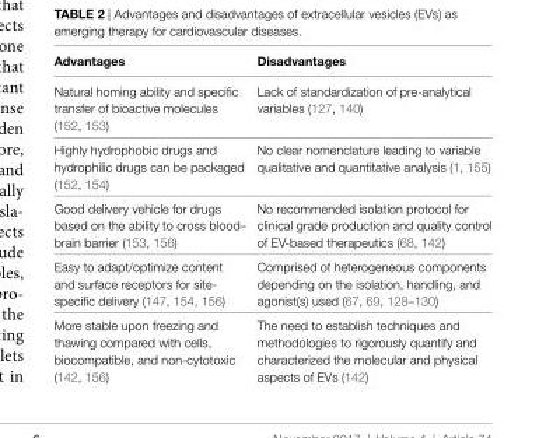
<table><thead><tr><td>Advantages</td><td>Disadvantages</td></tr></thead><tbody><tr><td>Natural homing ability and specific transfer of bioactive molecules (152, 153)</td><td>Lack of standardization of pre-analytical variables (127, 140)</td></tr><tr><td>Highly hydrophobic drugs and hydrophilic drugs can be packaged (152, 154)</td><td>No clear nomenclature leading to variable qualitative and quantitative analysis (1, 155)</td></tr><tr><td>Good delivery vehicle for drugs based on the ability to cross blood– brain barrier (153, 156)</td><td>No recommended isolation protocol for clinical grade production and quality control of EV-based therapeutics (68, 142)</td></tr><tr><td>Easy to adapt/optimize content and surface receptors for site- specific delivery (147, 154, 156)</td><td>Comprised of heterogeneous components depending on the isolation, handling, and agonist(s) used (67, 69, 128–130)</td></tr><tr><td>More stable upon freezing and thawing compared with cells, biocompatible, and non-cytotoxic (142, 156)</td><td>The need to establish techniques and methodologies to rigorously quantify and characterized the molecular and physical aspects of EVs (142)</td></tr></tbody></table>